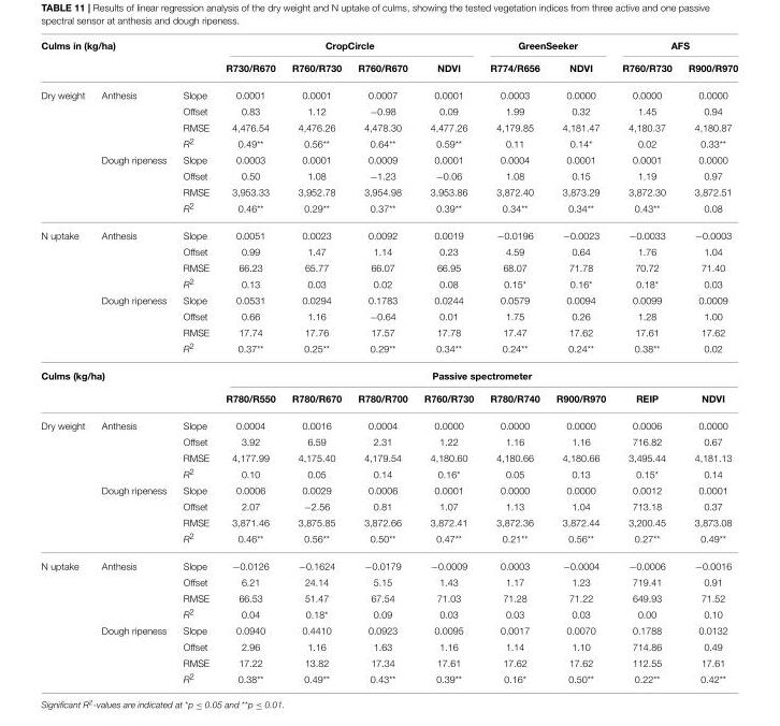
<table><thead><tr><td colspan="3">Culms in (kg/ha)</td><td colspan="4">CropCircle</td><td colspan="2">GreenSeeker</td><td colspan="2">AFS</td></tr><tr><td></td><td></td><td></td><td>R730/R670</td><td>R760/R730</td><td>R760/R670</td><td>NDVI</td><td>R774/R656</td><td>NDVI</td><td>R760/R730</td><td>R900/R970</td></tr></thead><tbody><tr><td rowspan="8">Dry weight</td><td>Anthesis</td><td>Slope</td><td>0.0001</td><td>0.0001</td><td>0.0007</td><td>0.0001</td><td>0.0003</td><td>0.0000</td><td>0.0000</td><td>0.0000</td></tr><tr><td></td><td>Offset</td><td>0.83</td><td>1.12</td><td>−0.98</td><td>0.09</td><td>1.99</td><td>0.32</td><td>1.45</td><td>0.94</td></tr><tr><td></td><td>RMSE</td><td>4,476.54</td><td>4,476.26</td><td>4,478.30</td><td>4,477.26</td><td>4,179.85</td><td>4,181.47</td><td>4,180.37</td><td>4,180.87</td></tr><tr><td></td><td>R<sup>2</sup></td><td>0.49**</td><td>0.56**</td><td>0.64**</td><td>0.59**</td><td>0.11</td><td>0.14*</td><td>0.02</td><td>0.33**</td></tr><tr><td>Dough ripeness</td><td>Slope</td><td>0.0003</td><td>0.0001</td><td>0.0009</td><td>0.0001</td><td>0.0004</td><td>0.0001</td><td>0.0001</td><td>0.0000</td></tr><tr><td></td><td>Offset</td><td>0.50</td><td>1.08</td><td>−1.23</td><td>−0.06</td><td>1.08</td><td>0.15</td><td>1.19</td><td>0.97</td></tr><tr><td></td><td>RMSE</td><td>3,953.33</td><td>3,952.78</td><td>3,954.98</td><td>3,953.86</td><td>3,872.40</td><td>3,873.29</td><td>3,872.30</td><td>3,872.51</td></tr><tr><td></td><td>R<sup>2</sup></td><td>0.46**</td><td>0.29**</td><td>0.37**</td><td>0.39**</td><td>0.34**</td><td>0.34**</td><td>0.43**</td><td>0.08</td></tr><tr><td rowspan="8">N uptake</td><td>Anthesis</td><td>Slope</td><td>0.0051</td><td>0.0023</td><td>0.0092</td><td>0.0019</td><td>−0.0196</td><td>−0.0023</td><td>−0.0033</td><td>−0.0003</td></tr><tr><td></td><td>Offset</td><td>0.99</td><td>1.47</td><td>1.14</td><td>0.23</td><td>4.59</td><td>0.64</td><td>1.76</td><td>1.04</td></tr><tr><td></td><td>RMSE</td><td>66.23</td><td>65.77</td><td>66.07</td><td>66.95</td><td>68.07</td><td>71.78</td><td>70.72</td><td>71.40</td></tr><tr><td></td><td>R<sup>2</sup></td><td>0.13</td><td>0.03</td><td>0.02</td><td>0.08</td><td>0.15*</td><td>0.16*</td><td>0.18*</td><td>0.03</td></tr><tr><td>Dough ripeness</td><td>Slope</td><td>0.0531</td><td>0.0294</td><td>0.1783</td><td>0.0244</td><td>0.0579</td><td>0.0094</td><td>0.0099</td><td>0.0009</td></tr><tr><td></td><td>Offset</td><td>0.66</td><td>1.16</td><td>−0.64</td><td>0.01</td><td>1.75</td><td>0.26</td><td>1.28</td><td>1.00</td></tr><tr><td></td><td>RMSE</td><td>17.74</td><td>17.76</td><td>17.57</td><td>17.78</td><td>17.47</td><td>17.62</td><td>17.61</td><td>17.62</td></tr><tr><td></td><td>R<sup>2</sup></td><td>0.37**</td><td>0.25**</td><td>0.29**</td><td>0.34**</td><td>0.24**</td><td>0.24**</td><td>0.38**</td><td>0.02</td></tr><tr><td colspan="3">Culms (kg/ha)</td><td colspan="8">Passive spectrometer</td></tr><tr><td></td><td></td><td></td><td>R780/R550</td><td>R780/R670</td><td>R780/R700</td><td>R760/R730</td><td>R780/R740</td><td>R900/R970</td><td>REIP</td><td>NDVI</td></tr><tr><td rowspan="8">Dry weight</td><td>Anthesis</td><td>Slope</td><td>0.0004</td><td>0.0016</td><td>0.0004</td><td>0.0000</td><td>0.0000</td><td>0.0000</td><td>0.0006</td><td>0.0000</td></tr><tr><td></td><td>Offset</td><td>3.92</td><td>6.59</td><td>2.31</td><td>1.22</td><td>1.16</td><td>1.16</td><td>716.82</td><td>0.67</td></tr><tr><td></td><td>RMSE</td><td>4,177.99</td><td>4,175.40</td><td>4,179.54</td><td>4,180.60</td><td>4,180.66</td><td>4,180.66</td><td>3,495.44</td><td>4,181.13</td></tr><tr><td></td><td>R<sup>2</sup></td><td>0.10</td><td>0.05</td><td>0.14</td><td>0.16*</td><td>0.05</td><td>0.13</td><td>0.15*</td><td>0.14</td></tr><tr><td>Dough ripeness</td><td>Slope</td><td>0.0006</td><td>0.0029</td><td>0.0006</td><td>0.0001</td><td>0.0000</td><td>0.0000</td><td>0.0012</td><td>0.0001</td></tr><tr><td></td><td>Offset</td><td>2.07</td><td>−2.56</td><td>0.81</td><td>1.07</td><td>1.13</td><td>1.04</td><td>713.18</td><td>0.37</td></tr><tr><td></td><td>RMSE</td><td>3,871.46</td><td>3,875.85</td><td>3,872.66</td><td>3,872.41</td><td>3,872.36</td><td>3,872.44</td><td>3,200.45</td><td>3,873.08</td></tr><tr><td></td><td>R<sup>2</sup></td><td>0.46**</td><td>0.56**</td><td>0.50**</td><td>0.47**</td><td>0.21**</td><td>0.56**</td><td>0.27**</td><td>0.49**</td></tr><tr><td rowspan="8">N uptake</td><td>Anthesis</td><td>Slope</td><td>−0.0126</td><td>−0.1624</td><td>−0.0179</td><td>−0.0009</td><td>0.0003</td><td>−0.0004</td><td>−0.0006</td><td>−0.0016</td></tr><tr><td></td><td>Offset</td><td>6.21</td><td>24.14</td><td>5.15</td><td>1.43</td><td>1.17</td><td>1.23</td><td>719.41</td><td>0.91</td></tr><tr><td></td><td>RMSE</td><td>66.53</td><td>51.47</td><td>67.54</td><td>71.03</td><td>71.28</td><td>71.22</td><td>649.93</td><td>71.52</td></tr><tr><td></td><td>R<sup>2</sup></td><td>0.04</td><td>0.18*</td><td>0.09</td><td>0.03</td><td>0.03</td><td>0.03</td><td>0.00</td><td>0.10</td></tr><tr><td>Dough ripeness</td><td>Slope</td><td>0.0940</td><td>0.4410</td><td>0.0923</td><td>0.0095</td><td>0.0017</td><td>0.0070</td><td>0.1788</td><td>0.0132</td></tr><tr><td></td><td>Offset</td><td>2.96</td><td>1.16</td><td>1.63</td><td>1.16</td><td>1.14</td><td>1.10</td><td>714.86</td><td>0.49</td></tr><tr><td></td><td>RMSE</td><td>17.22</td><td>13.82</td><td>17.34</td><td>17.61</td><td>17.62</td><td>17.62</td><td>112.55</td><td>17.61</td></tr><tr><td></td><td>R<sup>2</sup></td><td>0.38**</td><td>0.49**</td><td>0.43**</td><td>0.39**</td><td>0.16*</td><td>0.50**</td><td>0.22**</td><td>0.42**</td></tr></tbody></table>